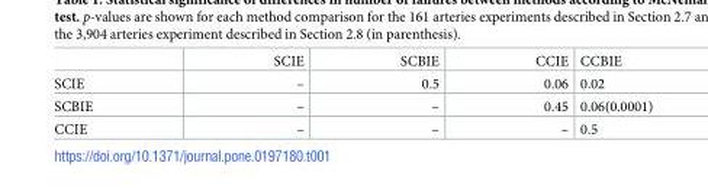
<table><thead><tr><td></td><td>SCIE</td><td>SCBIE</td><td>CCIE</td><td>CCBIE</td></tr></thead><tbody><tr><td>SCIE</td><td>–</td><td>0.5</td><td>0.06</td><td>0.02</td></tr><tr><td>SCBIE</td><td>–</td><td>–</td><td>0.45</td><td>0.06(0.0001)</td></tr><tr><td>CCIE</td><td>–</td><td>–</td><td>–</td><td>0.5</td></tr></tbody></table>